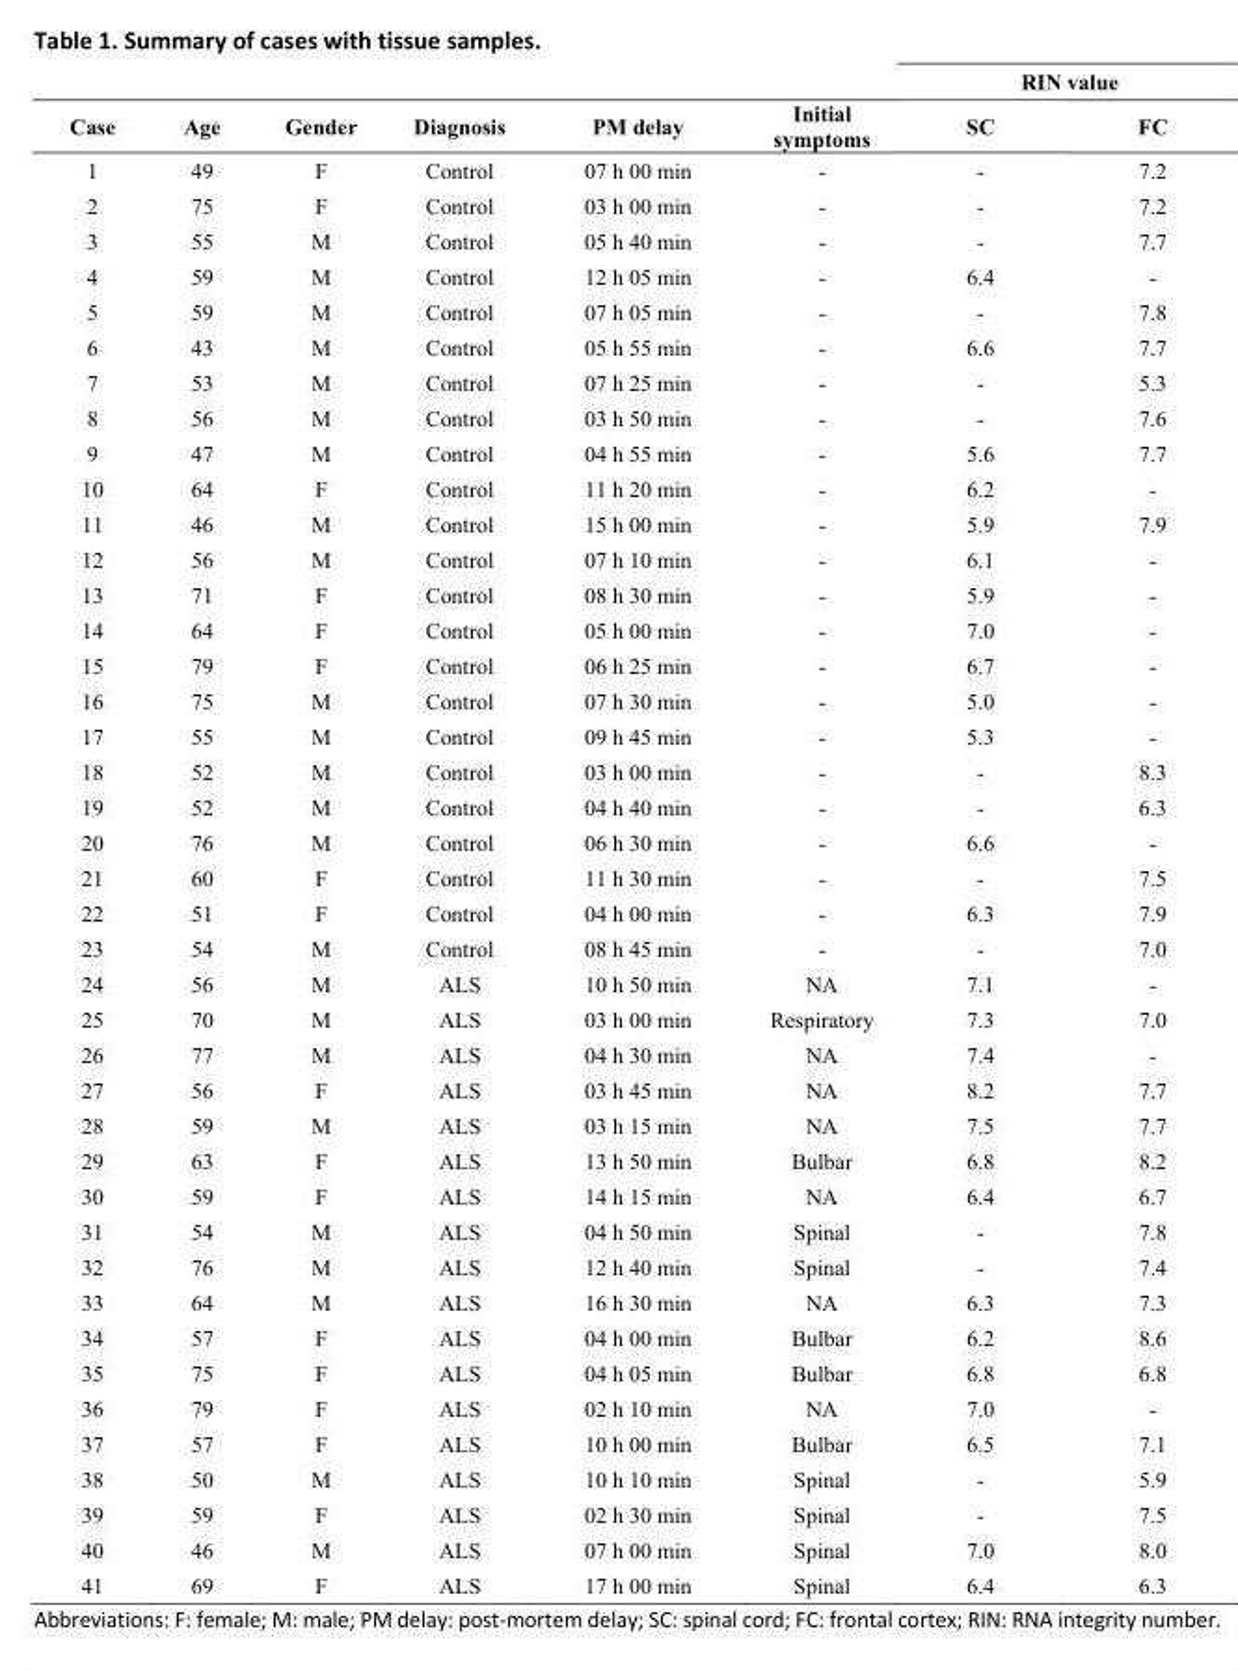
<table><thead><tr><td rowspan="2">Case</td><td rowspan="2">Age</td><td rowspan="2">Gender</td><td rowspan="2">Diagnosis</td><td rowspan="2">PM delay</td><td rowspan="2">Initial symptoms</td><td colspan="2">RIN value</td></tr><tr><td>SC</td><td>FC</td></tr></thead><tbody><tr><td>1</td><td>49</td><td>F</td><td>Control</td><td>07 h 00 min</td><td>-</td><td>-</td><td>7.2</td></tr><tr><td>2</td><td>75</td><td>F</td><td>Control</td><td>03 h 00 min</td><td>-</td><td>-</td><td>7.2</td></tr><tr><td>3</td><td>55</td><td>M</td><td>Control</td><td>05 h 40 min</td><td>-</td><td>-</td><td>7.7</td></tr><tr><td>4</td><td>59</td><td>M</td><td>Control</td><td>12 h 05 min</td><td>-</td><td>6.4</td><td>-</td></tr><tr><td>5</td><td>59</td><td>M</td><td>Control</td><td>07 h 05 min</td><td>-</td><td>-</td><td>7.8</td></tr><tr><td>6</td><td>43</td><td>M</td><td>Control</td><td>05 h 55 min</td><td>-</td><td>6.6</td><td>7.7</td></tr><tr><td>7</td><td>53</td><td>M</td><td>Control</td><td>07 h 25 min</td><td>-</td><td>-</td><td>5.3</td></tr><tr><td>8</td><td>56</td><td>M</td><td>Control</td><td>03 h 50 min</td><td>-</td><td>-</td><td>7.6</td></tr><tr><td>9</td><td>47</td><td>M</td><td>Control</td><td>04 h 55 min</td><td>-</td><td>5.6</td><td>7.7</td></tr><tr><td>10</td><td>64</td><td>F</td><td>Control</td><td>11 h 20 min</td><td>-</td><td>6.2</td><td>-</td></tr><tr><td>11</td><td>46</td><td>M</td><td>Control</td><td>15 h 00 min</td><td>-</td><td>5.9</td><td>7.9</td></tr><tr><td>12</td><td>56</td><td>M</td><td>Control</td><td>07 h 10 min</td><td>-</td><td>6.1</td><td>-</td></tr><tr><td>13</td><td>71</td><td>F</td><td>Control</td><td>08 h 30 min</td><td>-</td><td>5.9</td><td>-</td></tr><tr><td>14</td><td>64</td><td>F</td><td>Control</td><td>05 h 00 min</td><td>-</td><td>7.0</td><td>-</td></tr><tr><td>15</td><td>79</td><td>F</td><td>Control</td><td>06 h 25 min</td><td>-</td><td>6.7</td><td>-</td></tr><tr><td>16</td><td>75</td><td>M</td><td>Control</td><td>07 h 30 min</td><td>-</td><td>5.0</td><td>-</td></tr><tr><td>17</td><td>55</td><td>M</td><td>Control</td><td>09 h 45 min</td><td>-</td><td>5.3</td><td>-</td></tr><tr><td>18</td><td>52</td><td>M</td><td>Control</td><td>03 h 00 min</td><td>-</td><td>-</td><td>8.3</td></tr><tr><td>19</td><td>52</td><td>M</td><td>Control</td><td>04 h 40 min</td><td>-</td><td>-</td><td>6.3</td></tr><tr><td>20</td><td>76</td><td>M</td><td>Control</td><td>06 h 30 min</td><td>-</td><td>6.6</td><td>-</td></tr><tr><td>21</td><td>60</td><td>F</td><td>Control</td><td>11 h 30 min</td><td>-</td><td>-</td><td>7.5</td></tr><tr><td>22</td><td>51</td><td>F</td><td>Control</td><td>04 h 00 min</td><td>-</td><td>6.3</td><td>7.9</td></tr><tr><td>23</td><td>54</td><td>M</td><td>Control</td><td>08 h 45 min</td><td>-</td><td>-</td><td>7.0</td></tr><tr><td>24</td><td>56</td><td>M</td><td>ALS</td><td>10 h 50 min</td><td>NA</td><td>7.1</td><td>-</td></tr><tr><td>25</td><td>70</td><td>M</td><td>ALS</td><td>03 h 00 min</td><td>Respiratory</td><td>7.3</td><td>7.0</td></tr><tr><td>26</td><td>77</td><td>M</td><td>ALS</td><td>04 h 30 min</td><td>NA</td><td>7.4</td><td>-</td></tr><tr><td>27</td><td>56</td><td>F</td><td>ALS</td><td>03 h 45 min</td><td>NA</td><td>8.2</td><td>7.7</td></tr><tr><td>28</td><td>59</td><td>M</td><td>ALS</td><td>03 h 15 min</td><td>NA</td><td>7.5</td><td>7.7</td></tr><tr><td>29</td><td>63</td><td>F</td><td>ALS</td><td>13 h 50 min</td><td>Bulbar</td><td>6.8</td><td>8.2</td></tr><tr><td>30</td><td>59</td><td>F</td><td>ALS</td><td>14 h 15 min</td><td>NA</td><td>6.4</td><td>6.7</td></tr><tr><td>31</td><td>54</td><td>M</td><td>ALS</td><td>04 h 50 min</td><td>Spinal</td><td>-</td><td>7.8</td></tr><tr><td>32</td><td>76</td><td>M</td><td>ALS</td><td>12 h 40 min</td><td>Spinal</td><td>-</td><td>7.4</td></tr><tr><td>33</td><td>64</td><td>M</td><td>ALS</td><td>16 h 30 min</td><td>NA</td><td>6.3</td><td>7.3</td></tr><tr><td>34</td><td>57</td><td>F</td><td>ALS</td><td>04 h 00 min</td><td>Bulbar</td><td>6.2</td><td>8.6</td></tr><tr><td>35</td><td>75</td><td>F</td><td>ALS</td><td>04 h 05 min</td><td>Bulbar</td><td>6.8</td><td>6.8</td></tr><tr><td>36</td><td>79</td><td>F</td><td>ALS</td><td>02 h 10 min</td><td>NA</td><td>7.0</td><td>-</td></tr><tr><td>37</td><td>57</td><td>F</td><td>ALS</td><td>10 h 00 min</td><td>Bulbar</td><td>6.5</td><td>7.1</td></tr><tr><td>38</td><td>50</td><td>M</td><td>ALS</td><td>10 h 10 min</td><td>Spinal</td><td>-</td><td>5.9</td></tr><tr><td>39</td><td>59</td><td>F</td><td>ALS</td><td>02 h 30 min</td><td>Spinal</td><td>-</td><td>7.5</td></tr><tr><td>40</td><td>46</td><td>M</td><td>ALS</td><td>07 h 00 min</td><td>Spinal</td><td>7.0</td><td>8.0</td></tr><tr><td>41</td><td>69</td><td>F</td><td>ALS</td><td>17 h 00 min</td><td>Spinal</td><td>6.4</td><td>6.3</td></tr></tbody></table>